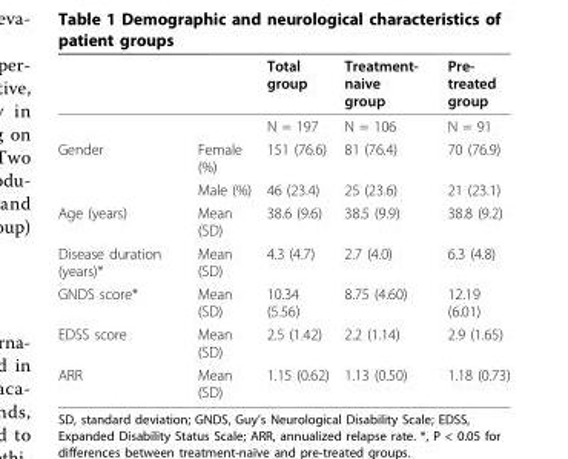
<table><thead><tr><td></td><td></td><td>Total group</td><td>Treatment- naive group</td><td>Pre- treated group</td></tr></thead><tbody><tr><td></td><td></td><td>N = 197</td><td>N = 106</td><td>N = 91</td></tr><tr><td rowspan="2">Gender</td><td>Female (%)</td><td>151 (76.6)</td><td>81 (76.4)</td><td>70 (76.9)</td></tr><tr><td>Male (%)</td><td>46 (23.4)</td><td>25 (23.6)</td><td>21 (23.1)</td></tr><tr><td>Age (years)</td><td>Mean (SD)</td><td>38.6 (9.6)</td><td>38.5 (9.9)</td><td>38.8 (9.2)</td></tr><tr><td>Disease duration (years)*</td><td>Mean (SD)</td><td>4.3 (4.7)</td><td>2.7 (4.0)</td><td>6.3 (4.8)</td></tr><tr><td>GNDS score*</td><td>Mean (SD)</td><td>10.34 (5.56)</td><td>8.75 (4.60)</td><td>12.19 (6.01)</td></tr><tr><td>EDSS score</td><td>Mean (SD)</td><td>2.5 (1.42)</td><td>2.2 (1.14)</td><td>2.9 (1.65)</td></tr><tr><td>ARR</td><td>Mean (SD)</td><td>1.15 (0.62)</td><td>1.13 (0.50)</td><td>1.18 (0.73)</td></tr></tbody></table>